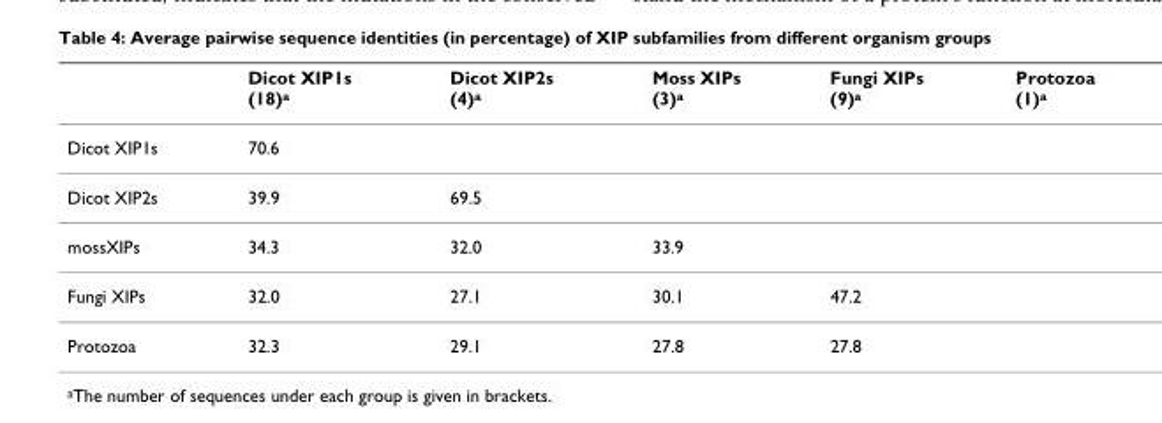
<table><thead><tr><td></td><td>Dicot XIP1s (18)<sup>a</sup></td><td>Dicot XIP2s (4)<sup>a</sup></td><td>Moss XIPs (3)<sup>a</sup></td><td>Fungi XIPs (9)<sup>a</sup></td><td>Protozoa (1)<sup>a</sup></td></tr></thead><tbody><tr><td>Dicot XIP1s</td><td>70.6</td><td></td><td></td><td></td><td></td></tr><tr><td>Dicot XIP2s</td><td>39.9</td><td>69.5</td><td></td><td></td><td></td></tr><tr><td>mossXIPs</td><td>34.3</td><td>32.0</td><td>33.9</td><td></td><td></td></tr><tr><td>Fungi XIPs</td><td>32.0</td><td>27.1</td><td>30.1</td><td>47.2</td><td></td></tr><tr><td>Protozoa</td><td>32.3</td><td>29.1</td><td>27.8</td><td>27.8</td><td></td></tr></tbody></table>